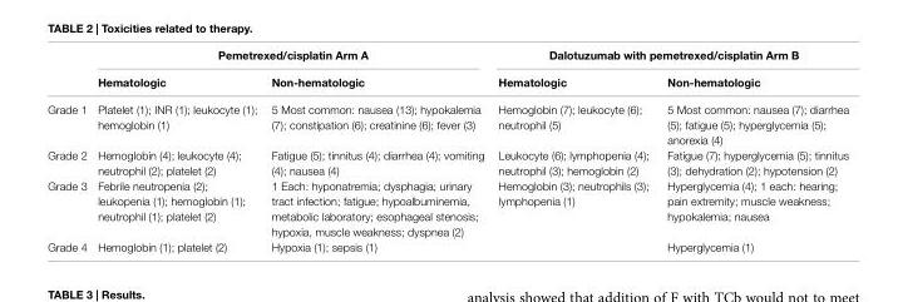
<table><thead><tr><td rowspan="2"></td><td colspan="2">Pemetrexed/cisplatin arm a</td><td colspan="2">Dalotuzumab with pemetrexed/cisplatin arm B</td></tr><tr><td>Hematologic</td><td>non-hematologic</td><td>Hematologic</td><td>non-hematologic</td></tr></thead><tbody><tr><td>Grade 1</td><td>Platelet (1); INR (1); leukocyte (1); hemoglobin (1)</td><td>5 Most common: nausea (13); hypokalemia (7); constipation (6); creatinine (6); fever (3)</td><td>Hemoglobin (7); leukocyte (6); neutrophil (5)</td><td>5 Most common: nausea (7); diarrhea (5); fatigue (5); hyperglycemia (5); anorexia (4)</td></tr><tr><td>Grade 2</td><td>Hemoglobin (4); leukocyte (4); neutrophil (2); platelet (2)</td><td>Fatigue (5); tinnitus (4); diarrhea (4); vomiting (4); nausea (4)</td><td>Leukocyte (6); lymphopenia (4); neutrophil (3); hemoglobin (2)</td><td>Fatigue (7); hyperglycemia (5); tinnitus (3); dehydration (2); hypotension (2)</td></tr><tr><td>Grade 3</td><td>Febrile neutropenia (2); leukopenia (1); hemoglobin (1); neutrophil (1); platelet (2)</td><td>1 Each: hyponatremia; dysphagia; urinary tract infection; fatigue; hypoalbuminemia, metabolic laboratory; esophageal stenosis; hypoxia, muscle weakness; dyspnea (2)</td><td>Hemoglobin (3); neutrophils (3); lymphopenia (1)</td><td>Hyperglycemia (4); 1 each: hearing; pain extremity; muscle weakness; hypokalemia; nausea</td></tr><tr><td>Grade 4</td><td>Hemoglobin (1); platelet (2)</td><td>Hypoxia (1); sepsis (1)</td><td></td><td>Hyperglycemia (1)</td></tr></tbody></table>